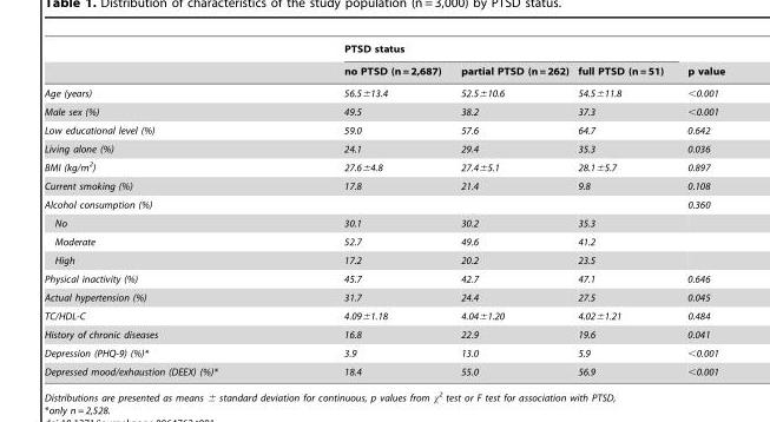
<table><thead><tr><td rowspan="2"></td><td colspan="3">PTSD status</td><td rowspan="2">p value</td></tr><tr><td>no PTSD (n = 2,687)</td><td>partial PTSD (n = 262)</td><td>full PTSD (n = 51)</td></tr></thead><tbody><tr><td>Age (years)</td><td>56.5±13.4</td><td>52.5±10.6</td><td>54.5±11.8</td><td>&lt;0.001</td></tr><tr><td>Male sex (%)</td><td>49.5</td><td>38.2</td><td>37.3</td><td>&lt;0.001</td></tr><tr><td>Low educational level (%)</td><td>59.0</td><td>57.6</td><td>64.7</td><td>0.642</td></tr><tr><td>Living alone (%)</td><td>24.1</td><td>29.4</td><td>35.3</td><td>0.036</td></tr><tr><td>BMI (kg/m<sup>2</sup>)</td><td>27.6±4.8</td><td>27.4±5.1</td><td>28.1±5.7</td><td>0.897</td></tr><tr><td>Current smoking (%)</td><td>17.8</td><td>21.4</td><td>9.8</td><td>0.108</td></tr><tr><td>Alcohol consumption (%)</td><td></td><td></td><td></td><td>0.360</td></tr><tr><td>No</td><td>30.1</td><td>30.2</td><td>35.3</td><td></td></tr><tr><td>Moderate</td><td>52.7</td><td>49.6</td><td>41.2</td><td></td></tr><tr><td>High</td><td>17.2</td><td>20.2</td><td>23.5</td><td></td></tr><tr><td>Physical inactivity (%)</td><td>45.7</td><td>42.7</td><td>47.1</td><td>0.646</td></tr><tr><td>Actual hypertension (%)</td><td>31.7</td><td>24.4</td><td>27.5</td><td>0.045</td></tr><tr><td>TC/HDL-C</td><td>4.09±1.18</td><td>4.04±1.20</td><td>4.02±1.21</td><td>0.484</td></tr><tr><td>History of chronic diseases</td><td>16.8</td><td>22.9</td><td>19.6</td><td>0.041</td></tr><tr><td>Depression (PHQ-9) (%)*</td><td>3.9</td><td>13.0</td><td>5.9</td><td>&lt;0.001</td></tr><tr><td>Depressed mood/exhaustion (DEEX) (%)*</td><td>18.4</td><td>55.0</td><td>56.9</td><td>&lt;0.001</td></tr></tbody></table>